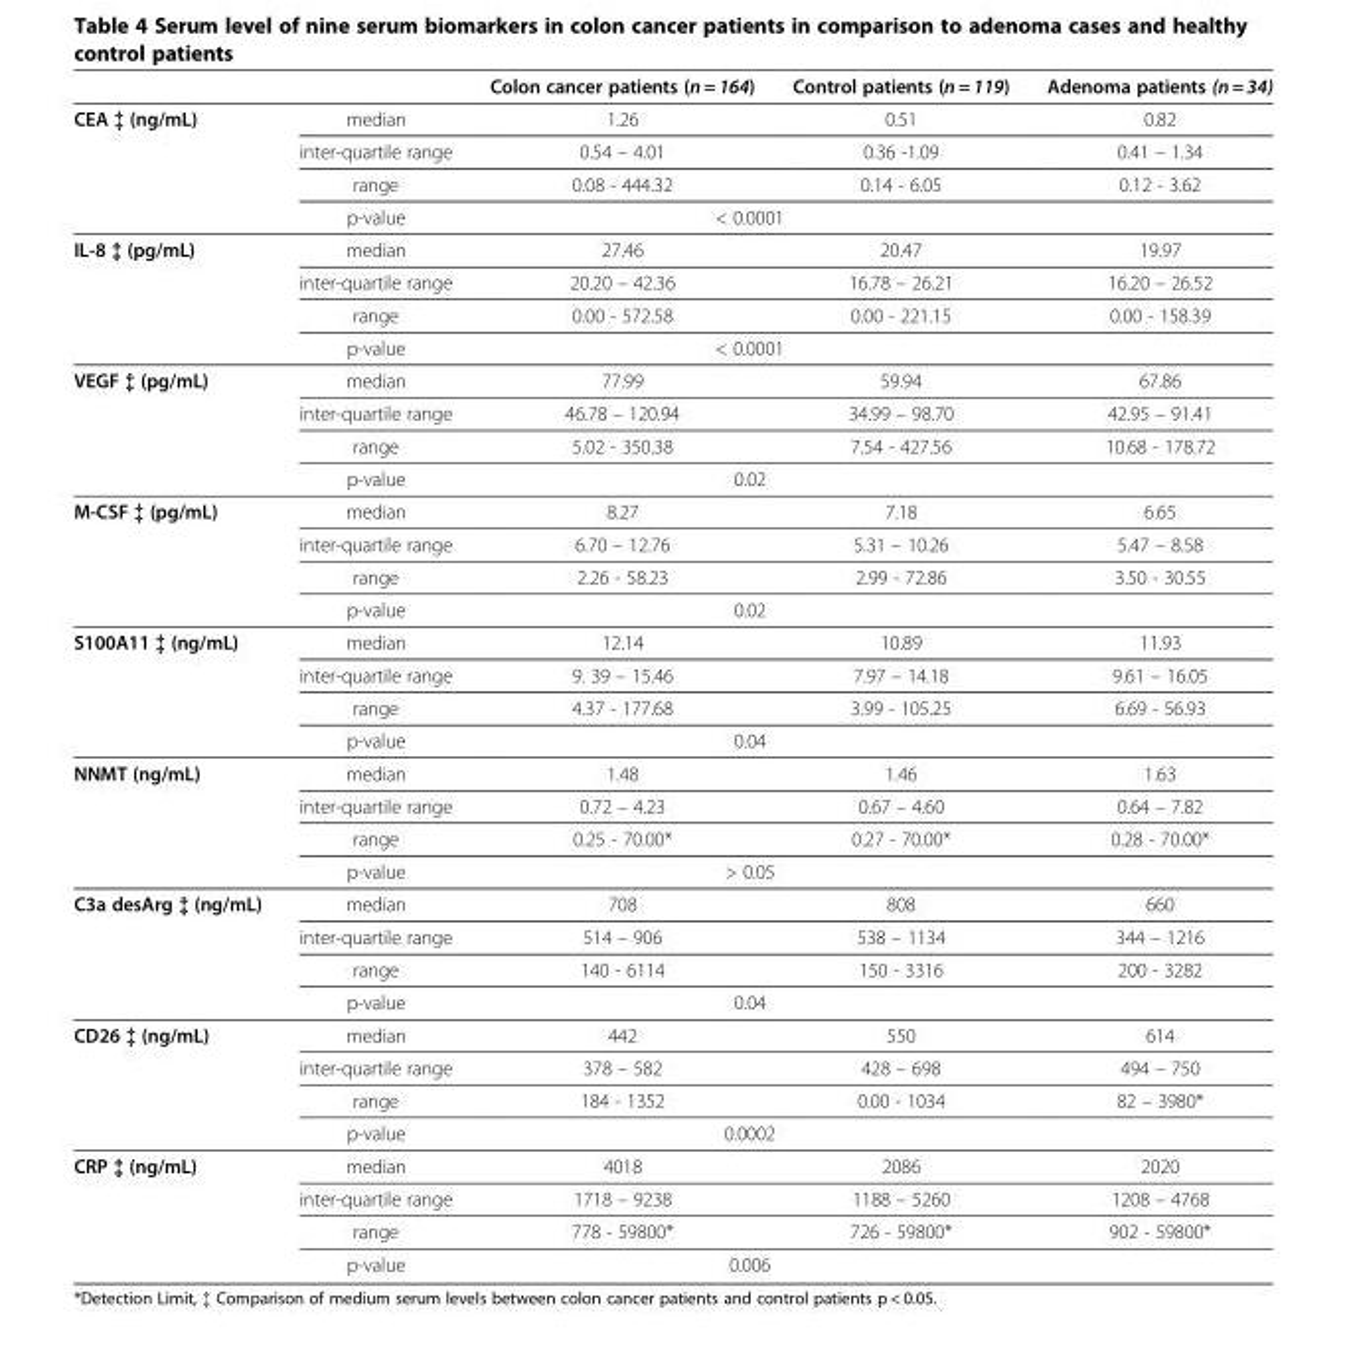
<table><thead><tr><td></td><td></td><td>Colon cancer patients (n = 164)</td><td>Control patients (n = 119)</td><td>Adenoma patients (n = 34)</td></tr></thead><tbody><tr><td rowspan="4">CEA {{ (ng/mL)</td><td>median</td><td>1.26</td><td>0.51</td><td>0.82</td></tr><tr><td>inter-quartile range</td><td>0.54 – 4.01</td><td>0.36 -1.09</td><td>0.41 – 1.34</td></tr><tr><td>range</td><td>0.08 - 444.32</td><td>0.14 - 6.05</td><td>0.12 - 3.62</td></tr><tr><td>p-value</td><td colspan="2">&lt; 0.0001</td><td></td></tr><tr><td rowspan="4">IL-8 {{ (pg/mL)</td><td>median</td><td>27.46</td><td>20.47</td><td>19.97</td></tr><tr><td>inter-quartile range</td><td>20.20 – 42.36</td><td>16.78 – 26.21</td><td>16.20 – 26.52</td></tr><tr><td>range</td><td>0.00 - 572.58</td><td>0.00 - 221.15</td><td>0.00 - 158.39</td></tr><tr><td>p-value</td><td colspan="2">&lt; 0.0001</td><td></td></tr><tr><td rowspan="4">VEGF {{ (pg/mL)</td><td>median</td><td>77.99</td><td>59.94</td><td>67.86</td></tr><tr><td>inter-quartile range</td><td>46.78 – 120.94</td><td>34.99 – 98.70</td><td>42.95 – 91.41</td></tr><tr><td>range</td><td>5.02 - 350.38</td><td>7.54 - 427.56</td><td>10.68 - 178.72</td></tr><tr><td>p-value</td><td colspan="2">0.02</td><td></td></tr><tr><td rowspan="4">M-CSF {{ (pg/mL)</td><td>median</td><td>8.27</td><td>7.18</td><td>6.65</td></tr><tr><td>inter-quartile range</td><td>6.70 – 12.76</td><td>5.31 – 10.26</td><td>5.47 – 8.58</td></tr><tr><td>range</td><td>2.26 - 58.23</td><td>2.99 - 72.86</td><td>3.50 - 30.55</td></tr><tr><td>p-value</td><td colspan="2">0.02</td><td></td></tr><tr><td rowspan="4">S100A11 {{ (ng/mL)</td><td>median</td><td>12.14</td><td>10.89</td><td>11.93</td></tr><tr><td>inter-quartile range</td><td>9. 39 – 15.46</td><td>7.97 – 14.18</td><td>9.61 – 16.05</td></tr><tr><td>range</td><td>4.37 - 177.68</td><td>3.99 - 105.25</td><td>6.69 - 56.93</td></tr><tr><td>p-value</td><td colspan="2">0.04</td><td></td></tr><tr><td rowspan="4">NNMT (ng/mL)</td><td>median</td><td>1.48</td><td>1.46</td><td>1.63</td></tr><tr><td>inter-quartile range</td><td>0.72 – 4.23</td><td>0.67 – 4.60</td><td>0.64 – 7.82</td></tr><tr><td>range</td><td>0.25 - 70.00*</td><td>0.27 - 70.00*</td><td>0.28 - 70.00*</td></tr><tr><td>p-value</td><td colspan="2">&gt; 0.05</td><td></td></tr><tr><td rowspan="4">C3a desArg {{ (ng/mL)</td><td>median</td><td>708</td><td>808</td><td>660</td></tr><tr><td>inter-quartile range</td><td>514 – 906</td><td>538 – 1134</td><td>344 – 1216</td></tr><tr><td>range</td><td>140 - 6114</td><td>150 - 3316</td><td>200 - 3282</td></tr><tr><td>p-value</td><td colspan="2">0.04</td><td></td></tr><tr><td rowspan="4">CD26 {{ (ng/mL)</td><td>median</td><td>442</td><td>550</td><td>614</td></tr><tr><td>inter-quartile range</td><td>378 – 582</td><td>428 – 698</td><td>494 – 750</td></tr><tr><td>range</td><td>184 - 1352</td><td>0.00 - 1034</td><td>82 – 3980*</td></tr><tr><td>p-value</td><td colspan="2">0.0002</td><td></td></tr><tr><td rowspan="4">CRP {{ (ng/mL)</td><td>median</td><td>4018</td><td>2086</td><td>2020</td></tr><tr><td>inter-quartile range</td><td>1718 – 9238</td><td>1188 – 5260</td><td>1208 – 4768</td></tr><tr><td>range</td><td>778 - 59800*</td><td>726 - 59800*</td><td>902 - 59800*</td></tr><tr><td>p-value</td><td colspan="2">0.006</td><td></td></tr></tbody></table>